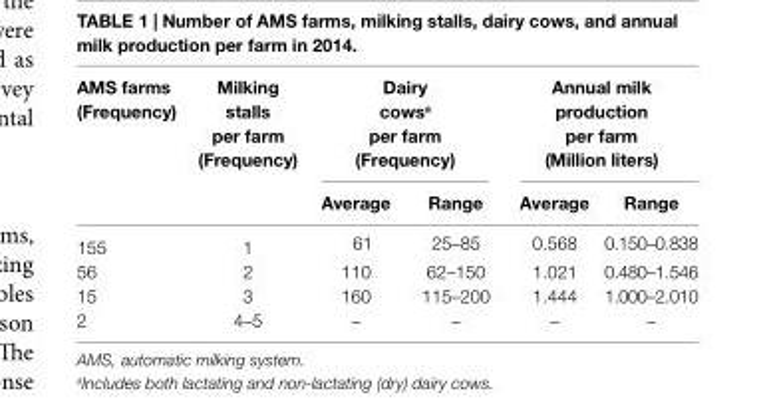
<table><thead><tr><td rowspan="2">aMs farms (Frequency)</td><td rowspan="2">Milking stalls per farm (Frequency)</td><td colspan="2">Dairy cows<sup>a</sup> per farm (Frequency)</td><td colspan="2">annual milk production per farm (Million liters)</td></tr><tr><td>average</td><td>range</td><td>average</td><td>range</td></tr></thead><tbody><tr><td>155</td><td>1</td><td>61</td><td>25–85</td><td>0.568</td><td>0.150–0.838</td></tr><tr><td>56</td><td>2</td><td>110</td><td>62–150</td><td>1.021</td><td>0.480–1.546</td></tr><tr><td>15</td><td>3</td><td>160</td><td>115–200</td><td>1.444</td><td>1.000–2.010</td></tr><tr><td>2</td><td>4–5</td><td>–</td><td>–</td><td>–</td><td>–</td></tr></tbody></table>